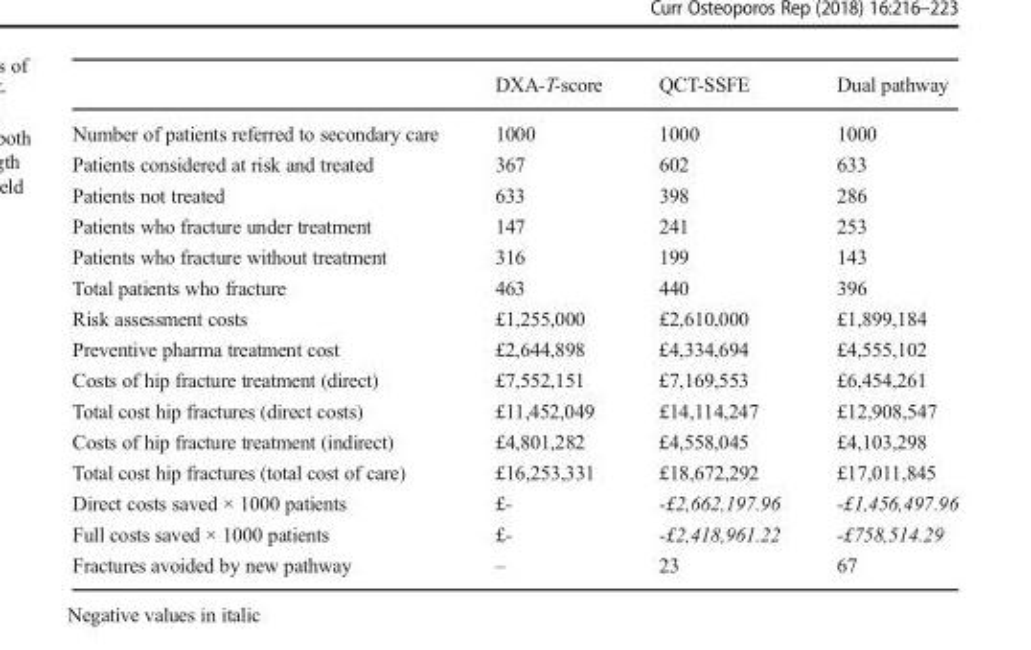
<table><thead><tr><td></td><td>DXA-T-score</td><td>QCT-SSFE</td><td>Dual pathway</td></tr></thead><tbody><tr><td>Number of patients referred to secondary care</td><td>1000</td><td>1000</td><td>1000</td></tr><tr><td>Patients considered at risk and treated</td><td>367</td><td>602</td><td>633</td></tr><tr><td>Patients not treated</td><td>633</td><td>398</td><td>286</td></tr><tr><td>Patients who fracture under treatment</td><td>147</td><td>241</td><td>253</td></tr><tr><td>Patients who fracture without treatment</td><td>316</td><td>199</td><td>143</td></tr><tr><td>Total patients who fracture</td><td>463</td><td>440</td><td>396</td></tr><tr><td>Risk assessment costs</td><td>£1,255,000</td><td>£2,610,000</td><td>£1,899,184</td></tr><tr><td>Preventive pharma treatment cost</td><td>£2,644,898</td><td>£4,334,694</td><td>£4,555,102</td></tr><tr><td>Costs of hip fracture treatment (direct)</td><td>£7,552,151</td><td>£7,169,553</td><td>£6,454,261</td></tr><tr><td>Total cost hip fractures (direct costs)</td><td>£11,452,049</td><td>£14,114,247</td><td>£12,908,547</td></tr><tr><td>Costs of hip fracture treatment (indirect)</td><td>£4,801,282</td><td>£4,558,045</td><td>£4,103,298</td></tr><tr><td>Total cost hip fractures (total cost of care)</td><td>£16,253,331</td><td>£18,672,292</td><td>£17,011,845</td></tr><tr><td>Direct costs saved × 1000 patients</td><td>£-</td><td>-£2,662,197.96</td><td>-£1,456,497.96</td></tr><tr><td>Full costs saved × 1000 patients</td><td>£-</td><td>-£2,418,961.22</td><td>-£758,514.29</td></tr><tr><td>Fractures avoided by new pathway</td><td>–</td><td>23</td><td>67</td></tr></tbody></table>